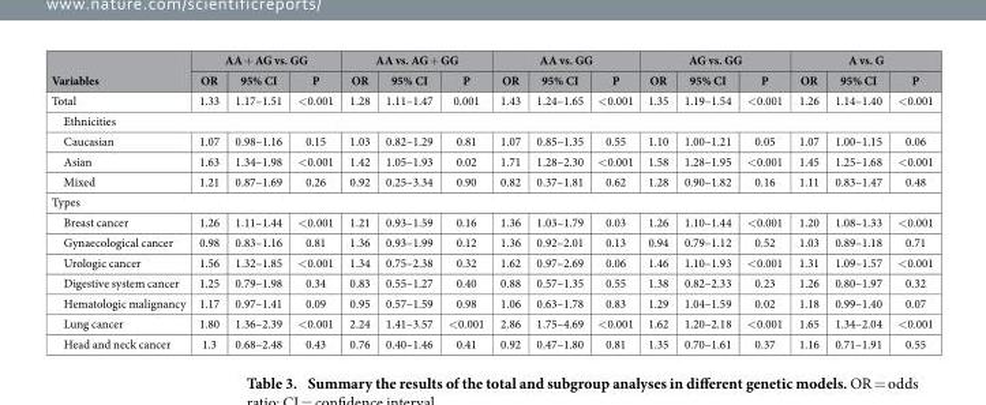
<table><thead><tr><td rowspan="2">Variables</td><td colspan="3">AA + AG vs. GG</td><td colspan="3">AA vs. AG + GG</td><td colspan="3">AA vs. GG</td><td colspan="3">AG vs. GG</td><td colspan="3">A vs. G</td></tr><tr><td>OR</td><td>95% CI</td><td>P</td><td>OR</td><td>95% CI</td><td>P</td><td>OR</td><td>95% CI</td><td>P</td><td>OR</td><td>95% CI</td><td>P</td><td>OR</td><td>95% CI</td><td>P</td></tr></thead><tbody><tr><td>Total</td><td>1.33</td><td>1.17–1.51</td><td>&lt;0.001</td><td>1.28</td><td>1.11–1.47</td><td>0.001</td><td>1.43</td><td>1.24–1.65</td><td>&lt;0.001</td><td>1.35</td><td>1.19–1.54</td><td>&lt;0.001</td><td>1.26</td><td>1.14–1.40</td><td>&lt;0.001</td></tr><tr><td colspan="16">Ethnicities</td></tr><tr><td>Caucasian</td><td>1.07</td><td>0.98–1.16</td><td>0.15</td><td>1.03</td><td>0.82–1.29</td><td>0.81</td><td>1.07</td><td>0.85–1.35</td><td>0.55</td><td>1.10</td><td>1.00–1.21</td><td>0.05</td><td>1.07</td><td>1.00–1.15</td><td>0.06</td></tr><tr><td>Asian</td><td>1.63</td><td>1.34–1.98</td><td>&lt;0.001</td><td>1.42</td><td>1.05–1.93</td><td>0.02</td><td>1.71</td><td>1.28–2.30</td><td>&lt;0.001</td><td>1.58</td><td>1.28–1.95</td><td>&lt;0.001</td><td>1.45</td><td>1.25–1.68</td><td>&lt;0.001</td></tr><tr><td>Mixed</td><td>1.21</td><td>0.87–1.69</td><td>0.26</td><td>0.92</td><td>0.25–3.34</td><td>0.90</td><td>0.82</td><td>0.37–1.81</td><td>0.62</td><td>1.28</td><td>0.90–1.82</td><td>0.16</td><td>1.11</td><td>0.83–1.47</td><td>0.48</td></tr><tr><td colspan="16">Types</td></tr><tr><td>Breast cancer</td><td>1.26</td><td>1.11–1.44</td><td>&lt;0.001</td><td>1.21</td><td>0.93–1.59</td><td>0.16</td><td>1.36</td><td>1.03–1.79</td><td>0.03</td><td>1.26</td><td>1.10–1.44</td><td>&lt;0.001</td><td>1.20</td><td>1.08–1.33</td><td>&lt;0.001</td></tr><tr><td>Gynaecological cancer</td><td>0.98</td><td>0.83–1.16</td><td>0.81</td><td>1.36</td><td>0.93–1.99</td><td>0.12</td><td>1.36</td><td>0.92–2.01</td><td>0.13</td><td>0.94</td><td>0.79–1.12</td><td>0.52</td><td>1.03</td><td>0.89–1.18</td><td>0.71</td></tr><tr><td>Urologic cancer</td><td>1.56</td><td>1.32–1.85</td><td>&lt;0.001</td><td>1.34</td><td>0.75–2.38</td><td>0.32</td><td>1.62</td><td>0.97–2.69</td><td>0.06</td><td>1.46</td><td>1.10–1.93</td><td>&lt;0.001</td><td>1.31</td><td>1.09–1.57</td><td>&lt;0.001</td></tr><tr><td>Digestive system cancer</td><td>1.25</td><td>0.79–1.98</td><td>0.34</td><td>0.83</td><td>0.55–1.27</td><td>0.40</td><td>0.88</td><td>0.57–1.35</td><td>0.55</td><td>1.38</td><td>0.82–2.33</td><td>0.23</td><td>1.26</td><td>0.80–1.97</td><td>0.32</td></tr><tr><td>Hematologic malignancy</td><td>1.17</td><td>0.97–1.41</td><td>0.09</td><td>0.95</td><td>0.57–1.59</td><td>0.98</td><td>1.06</td><td>0.63–1.78</td><td>0.83</td><td>1.29</td><td>1.04–1.59</td><td>0.02</td><td>1.18</td><td>0.99–1.40</td><td>0.07</td></tr><tr><td>Lung cancer</td><td>1.80</td><td>1.36–2.39</td><td>&lt;0.001</td><td>2.24</td><td>1.41–3.57</td><td>&lt;0.001</td><td>2.86</td><td>1.75–4.69</td><td>&lt;0.001</td><td>1.62</td><td>1.20–2.18</td><td>&lt;0.001</td><td>1.65</td><td>1.34–2.04</td><td>&lt;0.001</td></tr><tr><td>Head and neck cancer</td><td>1.3</td><td>0.68–2.48</td><td>0.43</td><td>0.76</td><td>0.40–1.46</td><td>0.41</td><td>0.92</td><td>0.47–1.80</td><td>0.81</td><td>1.35</td><td>0.70–1.61</td><td>0.37</td><td>1.16</td><td>0.71–1.91</td><td>0.55</td></tr></tbody></table>